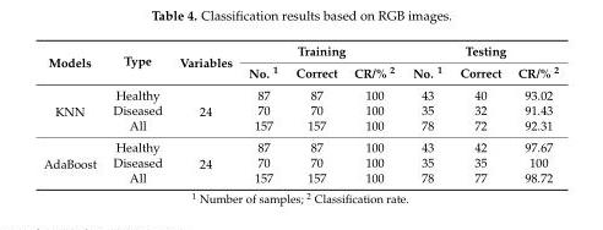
<table><thead><tr><td rowspan="2">Models</td><td rowspan="2">Type</td><td rowspan="2">Variables</td><td colspan="3">Training</td><td colspan="3">Testing</td></tr><tr><td>No. <sup>1</sup></td><td>Correct</td><td>CR/% <sup>2</sup></td><td>No. <sup>1</sup></td><td>Correct</td><td>CR/% <sup>2</sup></td></tr></thead><tbody><tr><td rowspan="3">KNN</td><td>Healthy</td><td rowspan="3">24</td><td>87</td><td>87</td><td>100</td><td>43</td><td>40</td><td>93.02</td></tr><tr><td>Diseased</td><td>70</td><td>70</td><td>100</td><td>35</td><td>32</td><td>91.43</td></tr><tr><td>All</td><td>157</td><td>157</td><td>100</td><td>78</td><td>72</td><td>92.31</td></tr><tr><td rowspan="3">AdaBoost</td><td>Healthy</td><td rowspan="3">24</td><td>87</td><td>87</td><td>100</td><td>43</td><td>42</td><td>97.67</td></tr><tr><td>Diseased</td><td>70</td><td>70</td><td>100</td><td>35</td><td>35</td><td>100</td></tr><tr><td>All</td><td>157</td><td>157</td><td>100</td><td>78</td><td>77</td><td>98.72</td></tr></tbody></table>